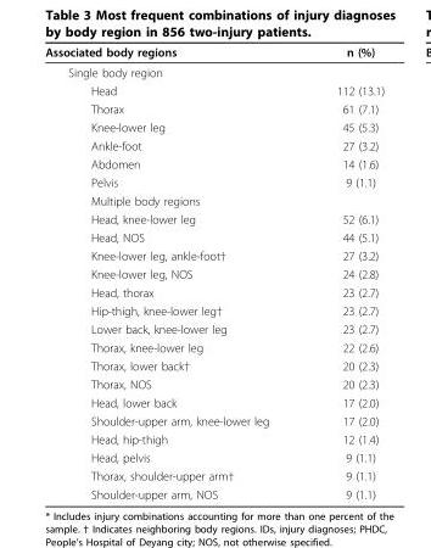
<table><thead><tr><td>Associated body regions</td><td>n (%)</td></tr></thead><tbody><tr><td colspan="2">Single body region</td></tr><tr><td>Head</td><td>112 (13.1)</td></tr><tr><td>Thorax</td><td>61 (7.1)</td></tr><tr><td>Knee-lower leg</td><td>45 (5.3)</td></tr><tr><td>Ankle-foot</td><td>27 (3.2)</td></tr><tr><td>Abdomen</td><td>14 (1.6)</td></tr><tr><td>Pelvis</td><td>9 (1.1)</td></tr><tr><td colspan="2">Multiple body regions</td></tr><tr><td>Head, knee-lower leg</td><td>52 (6.1)</td></tr><tr><td>Head, NOS</td><td>44 (5.1)</td></tr><tr><td>Knee-lower leg, ankle-foot†</td><td>27 (3.2)</td></tr><tr><td>Knee-lower leg, NOS</td><td>24 (2.8)</td></tr><tr><td>Head, thorax</td><td>23 (2.7)</td></tr><tr><td>Hip-thigh, knee-lower leg†</td><td>23 (2.7)</td></tr><tr><td>Lower back, knee-lower leg</td><td>23 (2.7)</td></tr><tr><td>Thorax, knee-lower leg</td><td>22 (2.6)</td></tr><tr><td>Thorax, lower back†</td><td>20 (2.3)</td></tr><tr><td>Thorax, NOS</td><td>20 (2.3)</td></tr><tr><td>Head, lower back</td><td>17 (2.0)</td></tr><tr><td>Shoulder-upper arm, knee-lower leg</td><td>17 (2.0)</td></tr><tr><td>Head, hip-thigh</td><td>12 (1.4)</td></tr><tr><td>Head, pelvis</td><td>9 (1.1)</td></tr><tr><td>Thorax, shoulder-upper arm†</td><td>9 (1.1)</td></tr><tr><td>Shoulder-upper arm, NOS</td><td>9 (1.1)</td></tr></tbody></table>